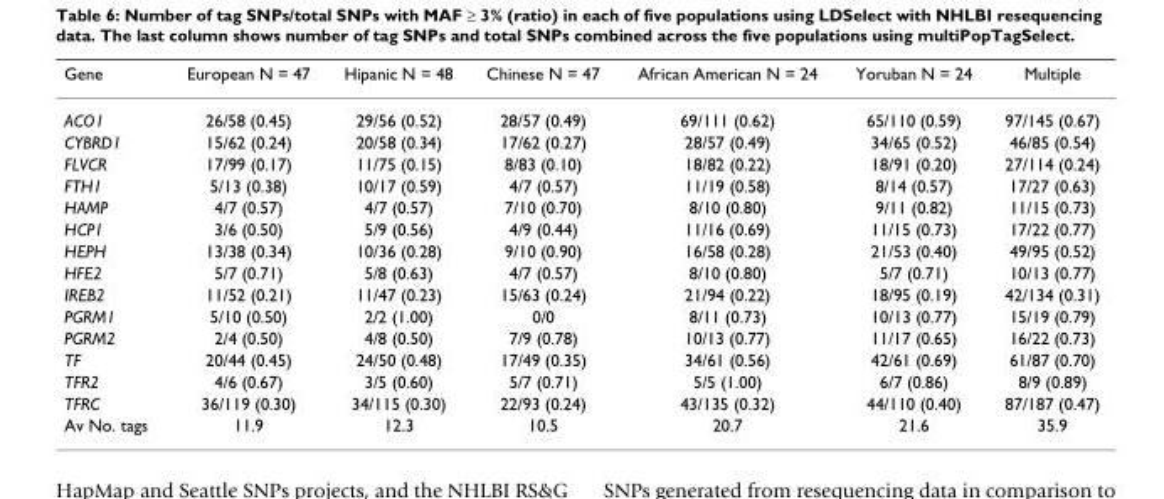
<table><thead><tr><td>Gene</td><td>European N = 47</td><td>Hipanic N = 48</td><td>Chinese N = 47</td><td>African American N = 24</td><td>Yoruban N = 24</td><td>Multiple</td></tr></thead><tbody><tr><td>ACO1</td><td>26/58 (0.45)</td><td>29/56 (0.52)</td><td>28/57 (0.49)</td><td>69/111 (0.62)</td><td>65/110 (0.59)</td><td>97/145 (0.67)</td></tr><tr><td>CYBRD1</td><td>15/62 (0.24)</td><td>20/58 (0.34)</td><td>17/62 (0.27)</td><td>28/57 (0.49)</td><td>34/65 (0.52)</td><td>46/85 (0.54)</td></tr><tr><td>FLVCR</td><td>17/99 (0.17)</td><td>11/75 (0.15)</td><td>8/83 (0.10)</td><td>18/82 (0.22)</td><td>18/91 (0.20)</td><td>27/114 (0.24)</td></tr><tr><td>FTH1</td><td>5/13 (0.38)</td><td>10/17 (0.59)</td><td>4/7 (0.57)</td><td>11/19 (0.58)</td><td>8/14 (0.57)</td><td>17/27 (0.63)</td></tr><tr><td>HAMP</td><td>4/7 (0.57)</td><td>4/7 (0.57)</td><td>7/10 (0.70)</td><td>8/10 (0.80)</td><td>9/11 (0.82)</td><td>11/15 (0.73)</td></tr><tr><td>HCP1</td><td>3/6 (0.50)</td><td>5/9 (0.56)</td><td>4/9 (0.44)</td><td>11/16 (0.69)</td><td>11/15 (0.73)</td><td>17/22 (0.77)</td></tr><tr><td>HEPH</td><td>13/38 (0.34)</td><td>10/36 (0.28)</td><td>9/10 (0.90)</td><td>16/58 (0.28)</td><td>21/53 (0.40)</td><td>49/95 (0.52)</td></tr><tr><td>HFE2</td><td>5/7 (0.71)</td><td>5/8 (0.63)</td><td>4/7 (0.57)</td><td>8/10 (0.80)</td><td>5/7 (0.71)</td><td>10/13 (0.77)</td></tr><tr><td>IREB2</td><td>11/52 (0.21)</td><td>11/47 (0.23)</td><td>15/63 (0.24)</td><td>21/94 (0.22)</td><td>18/95 (0.19)</td><td>42/134 (0.31)</td></tr><tr><td>PGRM1</td><td>5/10 (0.50)</td><td>2/2 (1.00)</td><td>0/0</td><td>8/11 (0.73)</td><td>10/13 (0.77)</td><td>15/19 (0.79)</td></tr><tr><td>PGRM2</td><td>2/4 (0.50)</td><td>4/8 (0.50)</td><td>7/9 (0.78)</td><td>10/13 (0.77)</td><td>11/17 (0.65)</td><td>16/22 (0.73)</td></tr><tr><td>TF</td><td>20/44 (0.45)</td><td>24/50 (0.48)</td><td>17/49 (0.35)</td><td>34/61 (0.56)</td><td>42/61 (0.69)</td><td>61/87 (0.70)</td></tr><tr><td>TFR2</td><td>4/6 (0.67)</td><td>3/5 (0.60)</td><td>5/7 (0.71)</td><td>5/5 (1.00)</td><td>6/7 (0.86)</td><td>8/9 (0.89)</td></tr><tr><td>TFRC</td><td>36/119 (0.30)</td><td>34/115 (0.30)</td><td>22/93 (0.24)</td><td>43/135 (0.32)</td><td>44/110 (0.40)</td><td>87/187 (0.47)</td></tr><tr><td>Av No. tags</td><td>11.9</td><td>12.3</td><td>10.5</td><td>20.7</td><td>21.6</td><td>35.9</td></tr></tbody></table>